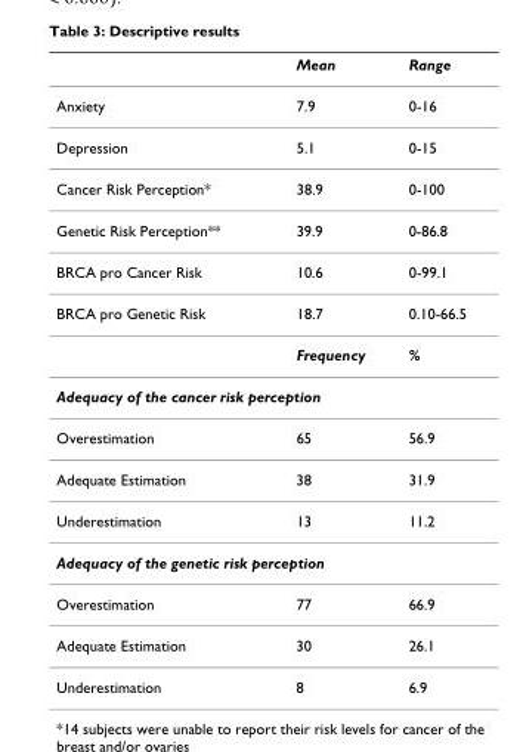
<table><thead><tr><td></td><td>Mean</td><td>Range</td></tr></thead><tbody><tr><td>Anxiety</td><td>7.9</td><td>0-16</td></tr><tr><td>Depression</td><td>5.1</td><td>0-15</td></tr><tr><td>Cancer Risk Perception*</td><td>38.9</td><td>0-100</td></tr><tr><td>Genetic Risk Perception**</td><td>39.9</td><td>0-86.8</td></tr><tr><td>BRCA pro Cancer Risk</td><td>10.6</td><td>0-99.1</td></tr><tr><td rowspan="2">BRCA pro Genetic Risk</td><td>18.7</td><td>0.10-66.5</td></tr><tr><td>Frequency</td><td>%</td></tr><tr><td colspan="3">Adequacy of the cancer risk perception</td></tr><tr><td>Overestimation</td><td>65</td><td>56.9</td></tr><tr><td>Adequate Estimation</td><td>38</td><td>31.9</td></tr><tr><td>Underestimation</td><td>13</td><td>11.2</td></tr><tr><td colspan="3">Adequacy of the genetic risk perception</td></tr><tr><td>Overestimation</td><td>77</td><td>66.9</td></tr><tr><td>Adequate Estimation</td><td>30</td><td>26.1</td></tr><tr><td>Underestimation</td><td>8</td><td>6.9</td></tr></tbody></table>